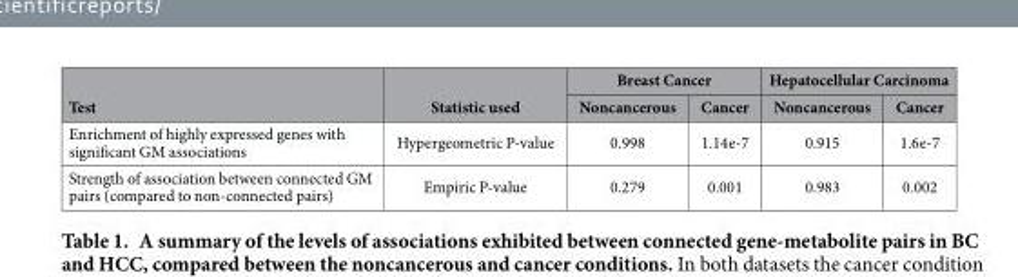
<table><thead><tr><td rowspan="2">Test</td><td rowspan="2">Statistic used</td><td colspan="2">Breast Cancer</td><td colspan="2">Hepatocellular Carcinoma</td></tr><tr><td>Noncancerous</td><td>Cancer</td><td>Noncancerous</td><td>Cancer</td></tr></thead><tbody><tr><td>Enrichment of highly expressed genes with significant GM associations</td><td>Hypergeometric P-value</td><td>0.998</td><td>1.14e-7</td><td>0.915</td><td>1.6e-7</td></tr><tr><td>Strength of association between connected GM pairs (compared to non-connected pairs)</td><td>Empiric P-value</td><td>0.279</td><td>0.001</td><td>0.983</td><td>0.002</td></tr></tbody></table>